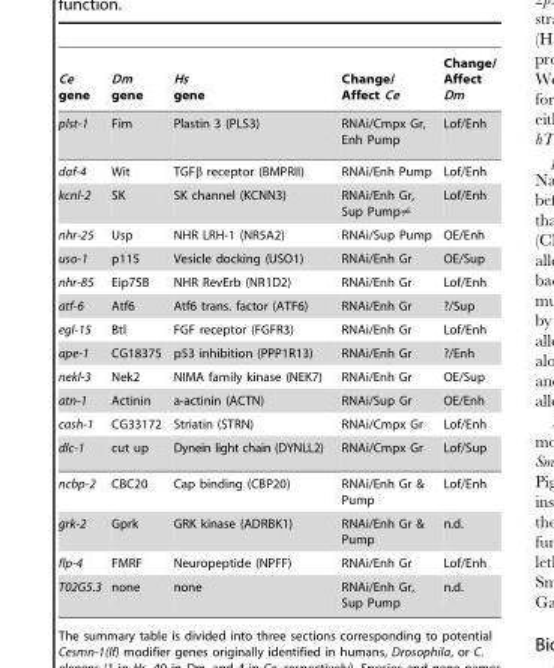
<table><thead><tr><td>Ce gene</td><td>Dm gene</td><td>Hs gene</td><td>Change/ Affect Ce</td><td>Change/ Affect Dm</td></tr></thead><tbody><tr><td>plst-1</td><td>Fim</td><td>Plastin 3 (PLS3)</td><td>RNAi/Cmpx Gr, Enh Pump</td><td>Lof/Enh</td></tr><tr><td>daf-4</td><td>Wit</td><td>TGFβ receptor (BMPRII)</td><td>RNAi/Enh Pump</td><td>Lof/Enh</td></tr><tr><td>kcnl-2</td><td>SK</td><td>SK channel (KCNN3)</td><td>RNAi/Enh Gr, Sup Pump≠</td><td>Lof/Enh</td></tr><tr><td>nhr-25</td><td>Usp</td><td>NHR LRH-1 (NR5A2)</td><td>RNAi/Sup Pump</td><td>OE/Enh</td></tr><tr><td>uso-1</td><td>p115</td><td>Vesicle docking (USO1)</td><td>RNAi/Enh Gr</td><td>OE/Sup</td></tr><tr><td>nhr-85</td><td>Eip75B</td><td>NHR RevErb (NR1D2)</td><td>RNAi/Enh Gr</td><td>Lof/Enh</td></tr><tr><td>atf-6</td><td>Atf6</td><td>Atf6 trans. factor (ATF6)</td><td>RNAi/Enh Gr</td><td>?/Sup</td></tr><tr><td>egl-15</td><td>Btl</td><td>FGF receptor (FGFR3)</td><td>RNAi/Enh Gr</td><td>Lof/Enh</td></tr><tr><td>ape-1</td><td>CG18375</td><td>p53 inhibition (PPP1R13)</td><td>RNAi/Enh Gr</td><td>?/Enh</td></tr><tr><td>nekl-3</td><td>Nek2</td><td>NIMA family kinase (NEK7)</td><td>RNAi/Enh Gr</td><td>OE/Sup</td></tr><tr><td>atn-1</td><td>Actinin</td><td>a-actinin (ACTN)</td><td>RNAi/Sup Gr</td><td>OE/Enh</td></tr><tr><td>cash-1</td><td>CG33172</td><td>Striatin (STRN)</td><td>RNAi/Cmpx Gr</td><td>Lof/Enh</td></tr><tr><td>dlc-1</td><td>cut up</td><td>Dynein light chain (DYNLL2)</td><td>RNAi/Cmpx Gr</td><td>Lof/Sup</td></tr><tr><td>ncbp-2</td><td>CBC20</td><td>Cap binding (CBP20)</td><td>RNAi/Enh Gr &amp; Pump</td><td>Lof/Enh</td></tr><tr><td>grk-2</td><td>Gprk</td><td>GRK kinase (ADRBK1)</td><td>RNAi/Enh Gr &amp; Pump</td><td>n.d.</td></tr><tr><td>flp-4</td><td>FMRF</td><td>Neuropeptide (NPFF)</td><td>RNAi/Enh Gr</td><td>Lof/Enh</td></tr><tr><td>T02G5.3</td><td>none</td><td>none</td><td>RNAi/Enh Gr, Sup Pump</td><td>n.d.</td></tr></tbody></table>